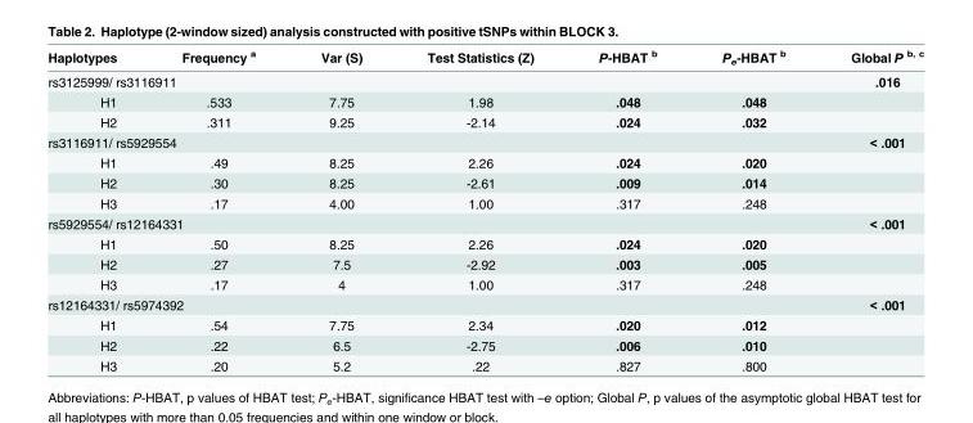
<table><thead><tr><td>Haplotypes</td><td>Frequency <sup>a</sup></td><td>Var (S)</td><td>Test Statistics (Z)</td><td>P-HBAT <sup>b</sup></td><td>P<sub>e</sub>-HBAT <sup>b</sup></td><td>Global P <sup>b, c</sup></td></tr></thead><tbody><tr><td colspan="6">rs3125999/ rs3116911</td><td>.016</td></tr><tr><td>H1</td><td>.533</td><td>7.75</td><td>1.98</td><td>.048</td><td>.048</td><td></td></tr><tr><td>H2</td><td>.311</td><td>9.25</td><td>-2.14</td><td>.024</td><td>.032</td><td></td></tr><tr><td colspan="6">rs3116911/ rs5929554</td><td>&lt; .001</td></tr><tr><td>H1</td><td>.49</td><td>8.25</td><td>2.26</td><td>.024</td><td>.020</td><td></td></tr><tr><td>H2</td><td>.30</td><td>8.25</td><td>-2.61</td><td>.009</td><td>.014</td><td></td></tr><tr><td>H3</td><td>.17</td><td>4.00</td><td>1.00</td><td>.317</td><td>.248</td><td></td></tr><tr><td colspan="6">rs5929554/ rs12164331</td><td>&lt; .001</td></tr><tr><td>H1</td><td>.50</td><td>8.25</td><td>2.26</td><td>.024</td><td>.020</td><td></td></tr><tr><td>H2</td><td>.27</td><td>7.5</td><td>-2.92</td><td>.003</td><td>.005</td><td></td></tr><tr><td>H3</td><td>.17</td><td>4</td><td>1.00</td><td>.317</td><td>.248</td><td></td></tr><tr><td colspan="6">rs12164331/ rs5974392</td><td>&lt; .001</td></tr><tr><td>H1</td><td>.54</td><td>7.75</td><td>2.34</td><td>.020</td><td>.012</td><td></td></tr><tr><td>H2</td><td>.22</td><td>6.5</td><td>-2.75</td><td>.006</td><td>.010</td><td></td></tr><tr><td>H3</td><td>.20</td><td>5.2</td><td>.22</td><td>.827</td><td>.800</td><td></td></tr></tbody></table>